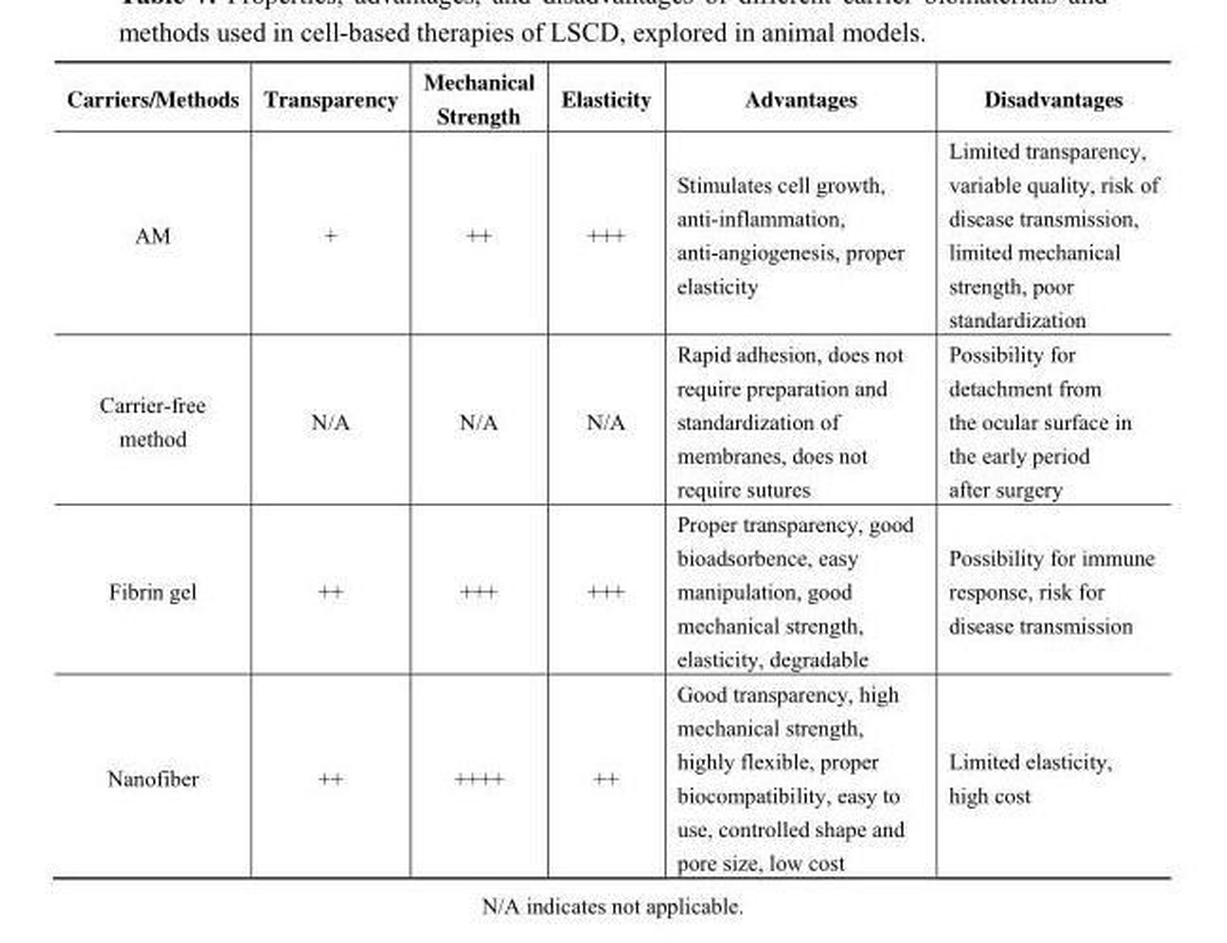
<table><thead><tr><td>Carriers/Methods</td><td>Transparency</td><td>Mechanical Strength</td><td>Elasticity</td><td>Advantages</td><td>Disadvantages</td></tr></thead><tbody><tr><td>AM</td><td>+</td><td>++</td><td>+++</td><td>Stimulates cell growth, anti-inflammation, anti-angiogenesis, proper elasticity</td><td>Limited transparency, variable quality, risk of disease transmission, limited mechanical strength, poor standardization</td></tr><tr><td>Carrier-free method</td><td>N/A</td><td>N/A</td><td>N/A</td><td>Rapid adhesion, does not require preparation and standardization of membranes, does not require sutures</td><td>Possibility for detachment from the ocular surface in the early period after surgery</td></tr><tr><td>Fibrin gel</td><td>++</td><td>+++</td><td>+++</td><td>Proper transparency, good bioadsorbence, easy manipulation, good mechanical strength, elasticity, degradable</td><td>Possibility for immune response, risk for disease transmission</td></tr><tr><td>Nanofiber</td><td>++</td><td>++++</td><td>++</td><td>Good transparency, high mechanical strength, highly flexible, proper biocompatibility, easy to use, controlled shape and pore size, low cost</td><td>Limited elasticity, high cost</td></tr></tbody></table>